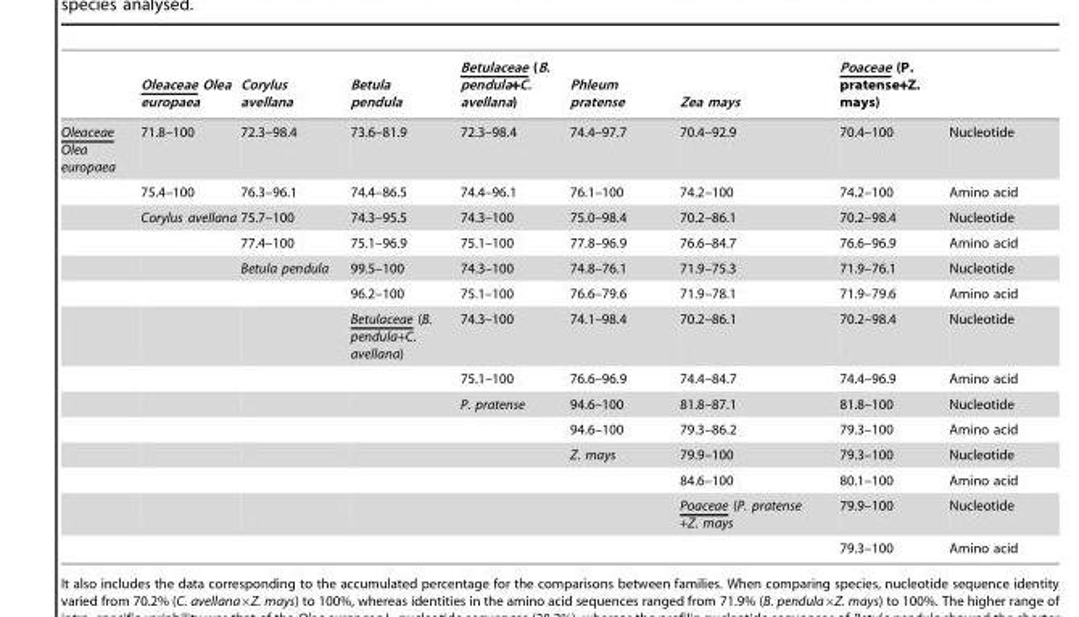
<table><thead><tr><td></td><td>Oleaceae Olea europaea</td><td>Corylus avellana</td><td>Betula pendula</td><td>Betulaceae (B. pendula+C. avellana)</td><td>Phleum pratense</td><td>Zea mays</td><td>Poaceae (P. pratense+Z. mays)</td><td></td></tr></thead><tbody><tr><td rowspan="14">Oleaceae Olea europaea</td><td>71.8–100</td><td>72.3–98.4</td><td>73.6–81.9</td><td>72.3–98.4</td><td>74.4–97.7</td><td>70.4–92.9</td><td>70.4–100</td><td>Nucleotide</td></tr><tr><td>75.4–100</td><td>76.3–96.1</td><td>74.4–86.5</td><td>74.4–96.1</td><td>76.1–100</td><td>74.2–100</td><td>74.2–100</td><td>Amino acid</td></tr><tr><td>Corylus avellana</td><td>75.7–100</td><td>74.3–95.5</td><td>74.3–100</td><td>75.0–98.4</td><td>70.2–86.1</td><td>70.2–98.4</td><td>Nucleotide</td></tr><tr><td></td><td>77.4–100</td><td>75.1–96.9</td><td>75.1–100</td><td>77.8–96.9</td><td>76.6–84.7</td><td>76.6–96.9</td><td>Amino acid</td></tr><tr><td></td><td>Betula pendula</td><td>99.5–100</td><td>74.3–100</td><td>74.8–76.1</td><td>71.9–75.3</td><td>71.9–76.1</td><td>Nucleotide</td></tr><tr><td></td><td></td><td>96.2–100</td><td>75.1–100</td><td>76.6–79.6</td><td>71.9–78.1</td><td>71.9–79.6</td><td>Amino acid</td></tr><tr><td></td><td></td><td>Betulaceae (B. pendula+C. avellana)</td><td>74.3–100</td><td>74.1–98.4</td><td>70.2–86.1</td><td>70.2–98.4</td><td>Nucleotide</td></tr><tr><td></td><td></td><td></td><td>75.1–100</td><td>76.6–96.9</td><td>74.4–84.7</td><td>74.4–96.9</td><td>Amino acid</td></tr><tr><td></td><td></td><td></td><td>P. pratense</td><td>94.6–100</td><td>81.8–87.1</td><td>81.8–100</td><td>Nucleotide</td></tr><tr><td></td><td></td><td></td><td></td><td>94.6–100</td><td>79.3–86.2</td><td>79.3–100</td><td>Amino acid</td></tr><tr><td></td><td></td><td></td><td></td><td>Z. mays</td><td>79.9–100</td><td>79.3–100</td><td>Nucleotide</td></tr><tr><td></td><td></td><td></td><td></td><td></td><td>84.6–100</td><td>80.1–100</td><td>Amino acid</td></tr><tr><td></td><td></td><td></td><td></td><td></td><td>Poaceae (P. pratense +Z. mays</td><td>79.9–100</td><td>Nucleotide</td></tr><tr><td></td><td></td><td></td><td></td><td></td><td></td><td>79.3–100</td><td>Amino acid</td></tr></tbody></table>